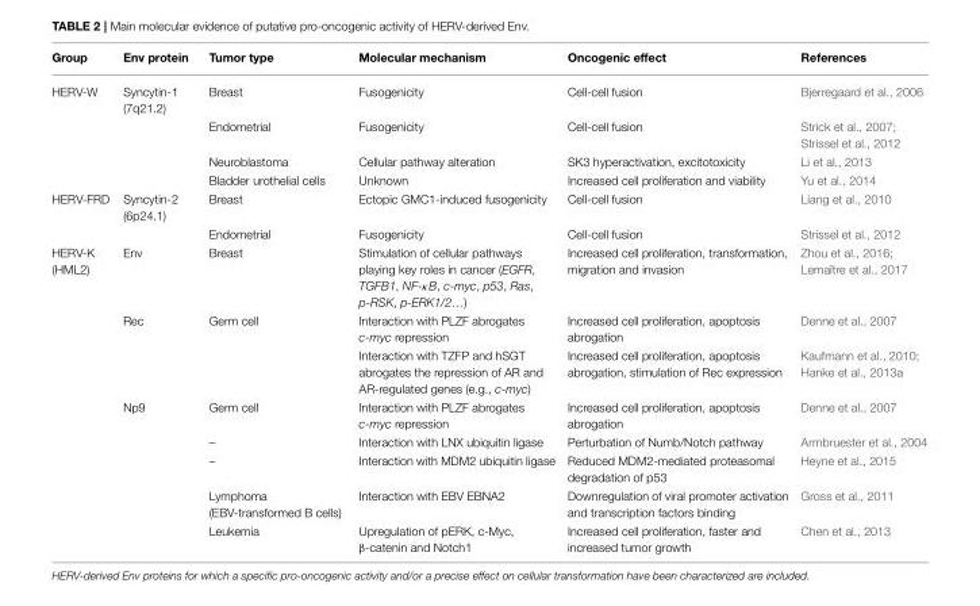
<table><thead><tr><td>Group</td><td>Env protein</td><td>Tumor type</td><td>Molecular mechanism</td><td>Oncogenic effect</td><td>References</td></tr></thead><tbody><tr><td rowspan="4">HERV-W</td><td>Syncytin-1 (7q21.2)</td><td>Breast</td><td>Fusogenicity</td><td>Cell-cell fusion</td><td>Bjerregaard et al., 2006</td></tr><tr><td></td><td>Endometrial</td><td>Fusogenicity</td><td>Cell-cell fusion</td><td>Strick et al., 2007; Strissel et al., 2012</td></tr><tr><td></td><td>Neuroblastoma</td><td>Cellular pathway alteration</td><td>SK3 hyperactivation, excitotoxicity</td><td>Li et al., 2013</td></tr><tr><td></td><td>Bladder urothelial cells</td><td>Unknown</td><td>Increased cell proliferation and viability</td><td>Yu et al., 2014</td></tr><tr><td rowspan="2">HERV-FRD</td><td>Syncytin-2 (6p24.1)</td><td>Breast</td><td>Ectopic GMC1-induced fusogenicity</td><td>Cell-cell fusion</td><td>Liang et al., 2010</td></tr><tr><td></td><td>Endometrial</td><td>Fusogenicity</td><td>Cell-cell fusion</td><td>Strissel et al., 2012</td></tr><tr><td rowspan="8">HERV-K (HML2)</td><td>Env</td><td>Breast</td><td>Stimulation of cellular pathways playing key roles in cancer (EGFR, TGFB1, NF-κB, c-myc, p53, Ras, p-RSK, p-ERK1/2…)</td><td>Increased cell proliferation, transformation, migration and invasion</td><td>Zhou et al., 2016; Lemaître et al., 2017</td></tr><tr><td>Rec</td><td>Germ cell</td><td>Interaction with PLZF abrogates c-myc repression</td><td>Increased cell proliferation, apoptosis abrogation</td><td>Denne et al., 2007</td></tr><tr><td></td><td></td><td>Interaction with TZFP and hSGT abrogates the repression of AR and AR-regulated genes (e.g., c-myc)</td><td>Increased cell proliferation, apoptosis abrogation, stimulation of Rec expression</td><td>Kaufmann et al., 2010; Hanke et al., 2013a</td></tr><tr><td>Np9</td><td>Germ cell</td><td>Interaction with PLZF abrogates c-myc repression</td><td>Increased cell proliferation, apoptosis abrogation</td><td>Denne et al., 2007</td></tr><tr><td></td><td>–</td><td>Interaction with LNX ubiquitin ligase</td><td>Perturbation of Numb/Notch pathway</td><td>Armbruester et al., 2004</td></tr><tr><td></td><td>–</td><td>Interaction with MDM2 ubiquitin ligase</td><td>Reduced MDM2-mediated proteasomal degradation of p53</td><td>Heyne et al., 2015</td></tr><tr><td></td><td>Lymphoma (EBV-transformed B cells)</td><td>Interaction with EBV EBNA2</td><td>Downregulation of viral promoter activation and transcription factors binding</td><td>Gross et al., 2011</td></tr><tr><td></td><td>Leukemia</td><td>Upregulation of pERK, c-Myc, β-catenin and Notch1</td><td>Increased cell proliferation, faster and increased tumor growth</td><td>Chen et al., 2013</td></tr></tbody></table>